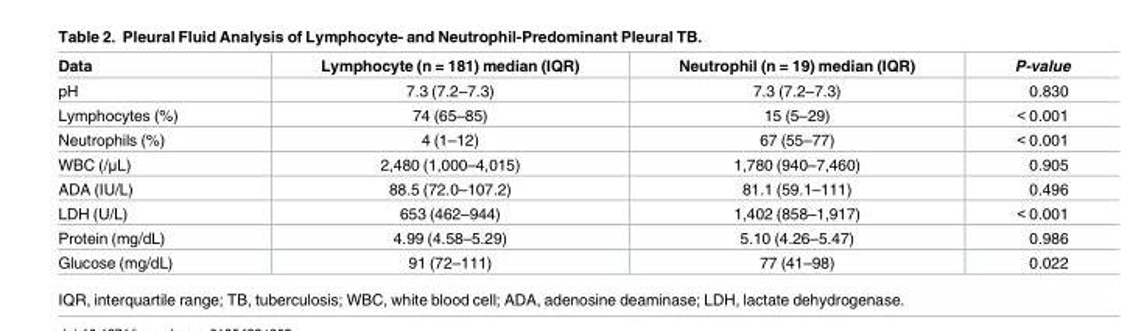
<table><thead><tr><td>Data</td><td>Lymphocyte (n = 181) median (IQR)</td><td>Neutrophil (n = 19) median (IQR)</td><td>P-value</td></tr></thead><tbody><tr><td>pH</td><td>7.3 (7.2–7.3)</td><td>7.3 (7.2–7.3)</td><td>0.830</td></tr><tr><td>Lymphocytes (%)</td><td>74 (65–85)</td><td>15 (5–29)</td><td>&lt; 0.001</td></tr><tr><td>Neutrophils (%)</td><td>4 (1–12)</td><td>67 (55–77)</td><td>&lt; 0.001</td></tr><tr><td>WBC (/μL)</td><td>2,480 (1,000–4,015)</td><td>1,780 (940–7,460)</td><td>0.905</td></tr><tr><td>ADA (IU/L)</td><td>88.5 (72.0–107.2)</td><td>81.1 (59.1–111)</td><td>0.496</td></tr><tr><td>LDH (U/L)</td><td>653 (462–944)</td><td>1,402 (858–1,917)</td><td>&lt; 0.001</td></tr><tr><td>Protein (mg/dL)</td><td>4.99 (4.58–5.29)</td><td>5.10 (4.26–5.47)</td><td>0.986</td></tr><tr><td>Glucose (mg/dL)</td><td>91 (72–111)</td><td>77 (41–98)</td><td>0.022</td></tr></tbody></table>